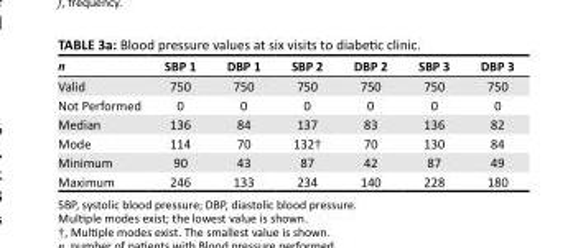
<table><thead><tr><td>n</td><td>SBP 1</td><td>DBP 1</td><td>SBP 2</td><td>DBP 2</td><td>SBP 3</td><td>DBP 3</td></tr></thead><tbody><tr><td>Valid</td><td>750</td><td>750</td><td>750</td><td>750</td><td>750</td><td>750</td></tr><tr><td>Not Performed</td><td>0</td><td>0</td><td>0</td><td>0</td><td>0</td><td>0</td></tr><tr><td>Median</td><td>136</td><td>84</td><td>137</td><td>83</td><td>136</td><td>82</td></tr><tr><td>Mode</td><td>114</td><td>70</td><td>132†</td><td>70</td><td>130</td><td>84</td></tr><tr><td>Minimum</td><td>90</td><td>43</td><td>87</td><td>42</td><td>87</td><td>49</td></tr><tr><td>Maximum</td><td>246</td><td>133</td><td>234</td><td>140</td><td>228</td><td>180</td></tr></tbody></table>